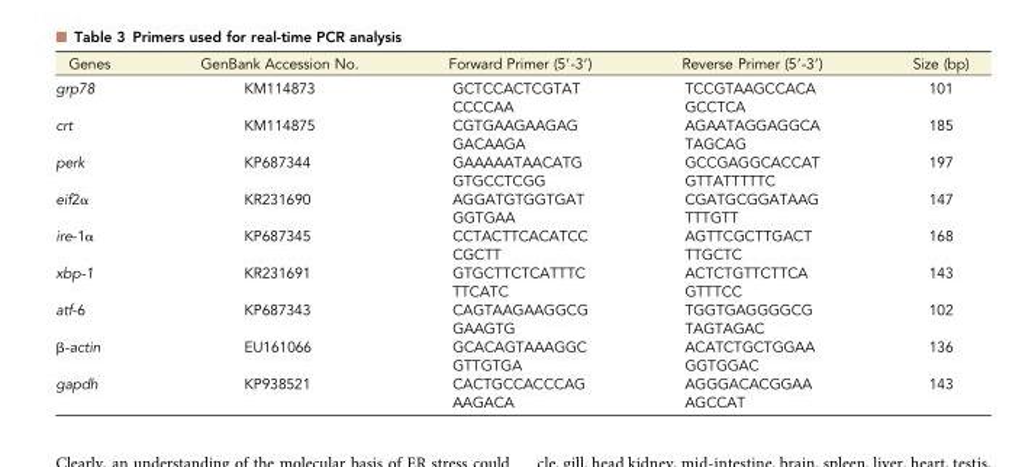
<table><thead><tr><td>Genes</td><td>GenBank Accession No.</td><td>Forward Primer (5′-3′)</td><td>Reverse Primer (5′-3′)</td><td>Size (bp)</td></tr></thead><tbody><tr><td rowspan="2">grp78</td><td rowspan="2">KM114873</td><td>GCTCCACTCGTAT</td><td>TCCGTAAGCCACA</td><td rowspan="2">101</td></tr><tr><td>CCCCAA</td><td>GCCTCA</td></tr><tr><td rowspan="2">crt</td><td rowspan="2">KM114875</td><td>CGTGAAGAAGAG</td><td>AGAATAGGAGGCA</td><td rowspan="2">185</td></tr><tr><td>GACAAGA</td><td>TAGCAG</td></tr><tr><td rowspan="2">perk</td><td rowspan="2">KP687344</td><td>GAAAAATAACATG</td><td>GCCGAGGCACCAT</td><td rowspan="2">197</td></tr><tr><td>GTGCCTCGG</td><td>GTTATTTTTC</td></tr><tr><td rowspan="2">eif2α</td><td rowspan="2">KR231690</td><td>AGGATGTGGTGAT</td><td>CGATGCGGATAAG</td><td rowspan="2">147</td></tr><tr><td>GGTGAA</td><td>TTTGTT</td></tr><tr><td rowspan="2">ire-1α</td><td rowspan="2">KP687345</td><td>CCTACTTCACATCC</td><td>AGTTCGCTTGACT</td><td rowspan="2">168</td></tr><tr><td>CGCTT</td><td>TTGCTC</td></tr><tr><td rowspan="2">xbp-1</td><td rowspan="2">KR231691</td><td>GTGCTTCTCATTTC</td><td>ACTCTGTTCTTCA</td><td rowspan="2">143</td></tr><tr><td>TTCATC</td><td>GTTTCC</td></tr><tr><td rowspan="2">atf-6</td><td rowspan="2">KP687343</td><td>CAGTAAGAAGGCG</td><td>TGGTGAGGGGCG</td><td rowspan="2">102</td></tr><tr><td>GAAGTG</td><td>TAGTAGAC</td></tr><tr><td rowspan="2">β-actin</td><td rowspan="2">EU161066</td><td>GCACAGTAAAGGC</td><td>ACATCTGCTGGAA</td><td rowspan="2">136</td></tr><tr><td>GTTGTGA</td><td>GGTGGAC</td></tr><tr><td rowspan="2">gapdh</td><td rowspan="2">KP938521</td><td>CACTGCCACCCAG</td><td>AGGGACACGGAA</td><td rowspan="2">143</td></tr><tr><td>AAGACA</td><td>AGCCAT</td></tr></tbody></table>